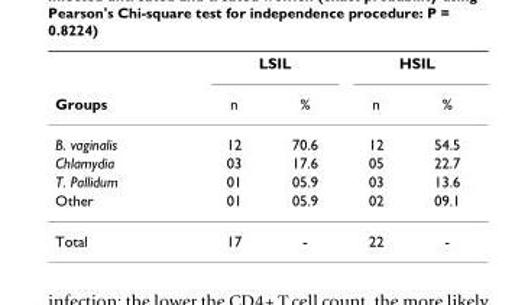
<table><thead><tr><td rowspan="2">Groups</td><td colspan="2">LSIL</td><td colspan="2">HSIL</td></tr><tr><td>n</td><td>%</td><td>n</td><td>%</td></tr></thead><tbody><tr><td>B. vaginalis</td><td>12</td><td>70.6</td><td>12</td><td>54.5</td></tr><tr><td>Chlamydia</td><td>03</td><td>17.6</td><td>05</td><td>22.7</td></tr><tr><td>T. Pallidum</td><td>01</td><td>05.9</td><td>03</td><td>13.6</td></tr><tr><td>Other</td><td>01</td><td>05.9</td><td>02</td><td>09.1</td></tr><tr><td>Total</td><td>17</td><td>-</td><td>22</td><td>-</td></tr></tbody></table>